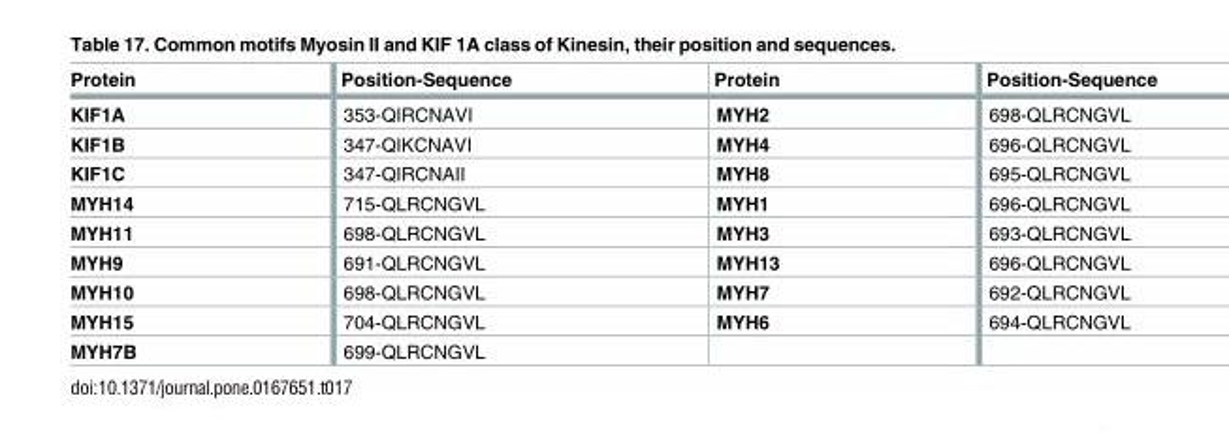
<table><thead><tr><td>Protein</td><td>Position-Sequence</td><td>Protein</td><td>Position-Sequence</td></tr></thead><tbody><tr><td>KIF1A</td><td>353-QIRCNAVI</td><td>MYH2</td><td>698-QLRCNGVL</td></tr><tr><td>KIF1B</td><td>347-QIKCNAVI</td><td>MYH4</td><td>696-QLRCNGVL</td></tr><tr><td>KIF1C</td><td>347-QIRCNAII</td><td>MYH8</td><td>695-QLRCNGVL</td></tr><tr><td>MYH14</td><td>715-QLRCNGVL</td><td>MYH1</td><td>696-QLRCNGVL</td></tr><tr><td>MYH11</td><td>698-QLRCNGVL</td><td>MYH3</td><td>693-QLRCNGVL</td></tr><tr><td>MYH9</td><td>691-QLRCNGVL</td><td>MYH13</td><td>696-QLRCNGVL</td></tr><tr><td>MYH10</td><td>698-QLRCNGVL</td><td>MYH7</td><td>692-QLRCNGVL</td></tr><tr><td>MYH15</td><td>704-QLRCNGVL</td><td>MYH6</td><td>694-QLRCNGVL</td></tr><tr><td>MYH7B</td><td>699-QLRCNGVL</td><td></td><td></td></tr></tbody></table>